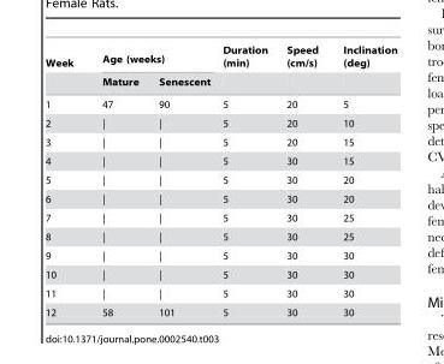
<table><thead><tr><td rowspan="2">Week</td><td colspan="2">Age (weeks)</td><td rowspan="2">Duration (min)</td><td rowspan="2">Speed (cm/s)</td><td rowspan="2">Inclination (deg)</td></tr><tr><td>Mature</td><td>Senescent</td></tr></thead><tbody><tr><td>1</td><td>47</td><td>90</td><td>5</td><td>20</td><td>5</td></tr><tr><td>2</td><td>|</td><td>|</td><td>5</td><td>20</td><td>10</td></tr><tr><td>3</td><td>|</td><td>|</td><td>5</td><td>20</td><td>15</td></tr><tr><td>4</td><td>|</td><td>|</td><td>5</td><td>30</td><td>15</td></tr><tr><td>5</td><td>|</td><td>|</td><td>5</td><td>30</td><td>20</td></tr><tr><td>6</td><td>|</td><td>|</td><td>5</td><td>30</td><td>20</td></tr><tr><td>7</td><td>|</td><td>|</td><td>5</td><td>30</td><td>25</td></tr><tr><td>8</td><td>|</td><td>|</td><td>5</td><td>30</td><td>25</td></tr><tr><td>9</td><td>|</td><td>|</td><td>5</td><td>30</td><td>30</td></tr><tr><td>10</td><td>|</td><td>|</td><td>5</td><td>30</td><td>30</td></tr><tr><td>11</td><td>|</td><td>|</td><td>5</td><td>30</td><td>30</td></tr><tr><td>12</td><td>58</td><td>101</td><td>5</td><td>30</td><td>30</td></tr></tbody></table>